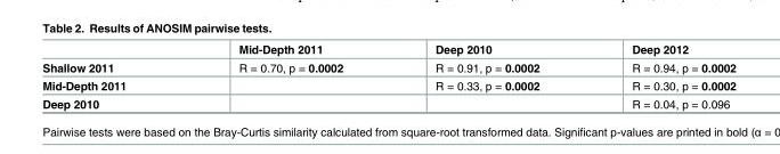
<table><thead><tr><td></td><td>Mid-Depth 2011</td><td>Deep 2010</td><td>Deep 2012</td></tr></thead><tbody><tr><td>Shallow 2011</td><td>R = 0.70, p = 0.0002</td><td>R = 0.91, p = 0.0002</td><td>R = 0.94, p = 0.0002</td></tr><tr><td>Mid-Depth 2011</td><td></td><td>R = 0.33, p = 0.0002</td><td>R = 0.30, p = 0.0002</td></tr><tr><td>Deep 2010</td><td></td><td></td><td>R = 0.04, p = 0.096</td></tr></tbody></table>